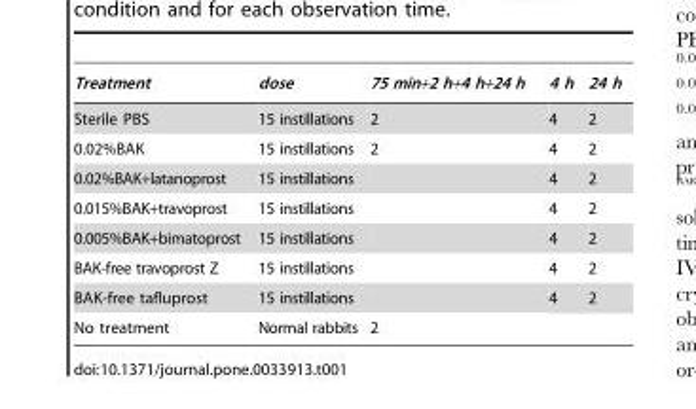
<table><thead><tr><td>Treatment</td><td>dose</td><td>75 min+2 h+4 h+24 h</td><td>4 h</td><td>24 h</td></tr></thead><tbody><tr><td>Sterile PBS</td><td>15 instillations</td><td>2</td><td>4</td><td>2</td></tr><tr><td>0.02%BAK</td><td>15 instillations</td><td>2</td><td>4</td><td>2</td></tr><tr><td>0.02%BAK+latanoprost</td><td>15 instillations</td><td></td><td>4</td><td>2</td></tr><tr><td>0.015%BAK+travoprost</td><td>15 instillations</td><td></td><td>4</td><td>2</td></tr><tr><td>0.005%BAK+bimatoprost</td><td>15 instillations</td><td></td><td>4</td><td>2</td></tr><tr><td>BAK-free travoprost Z</td><td>15 instillations</td><td></td><td>4</td><td>2</td></tr><tr><td>BAK-free tafluprost</td><td>15 instillations</td><td></td><td>4</td><td>2</td></tr><tr><td>No treatment</td><td>Normal rabbits</td><td colspan="3">2</td></tr></tbody></table>